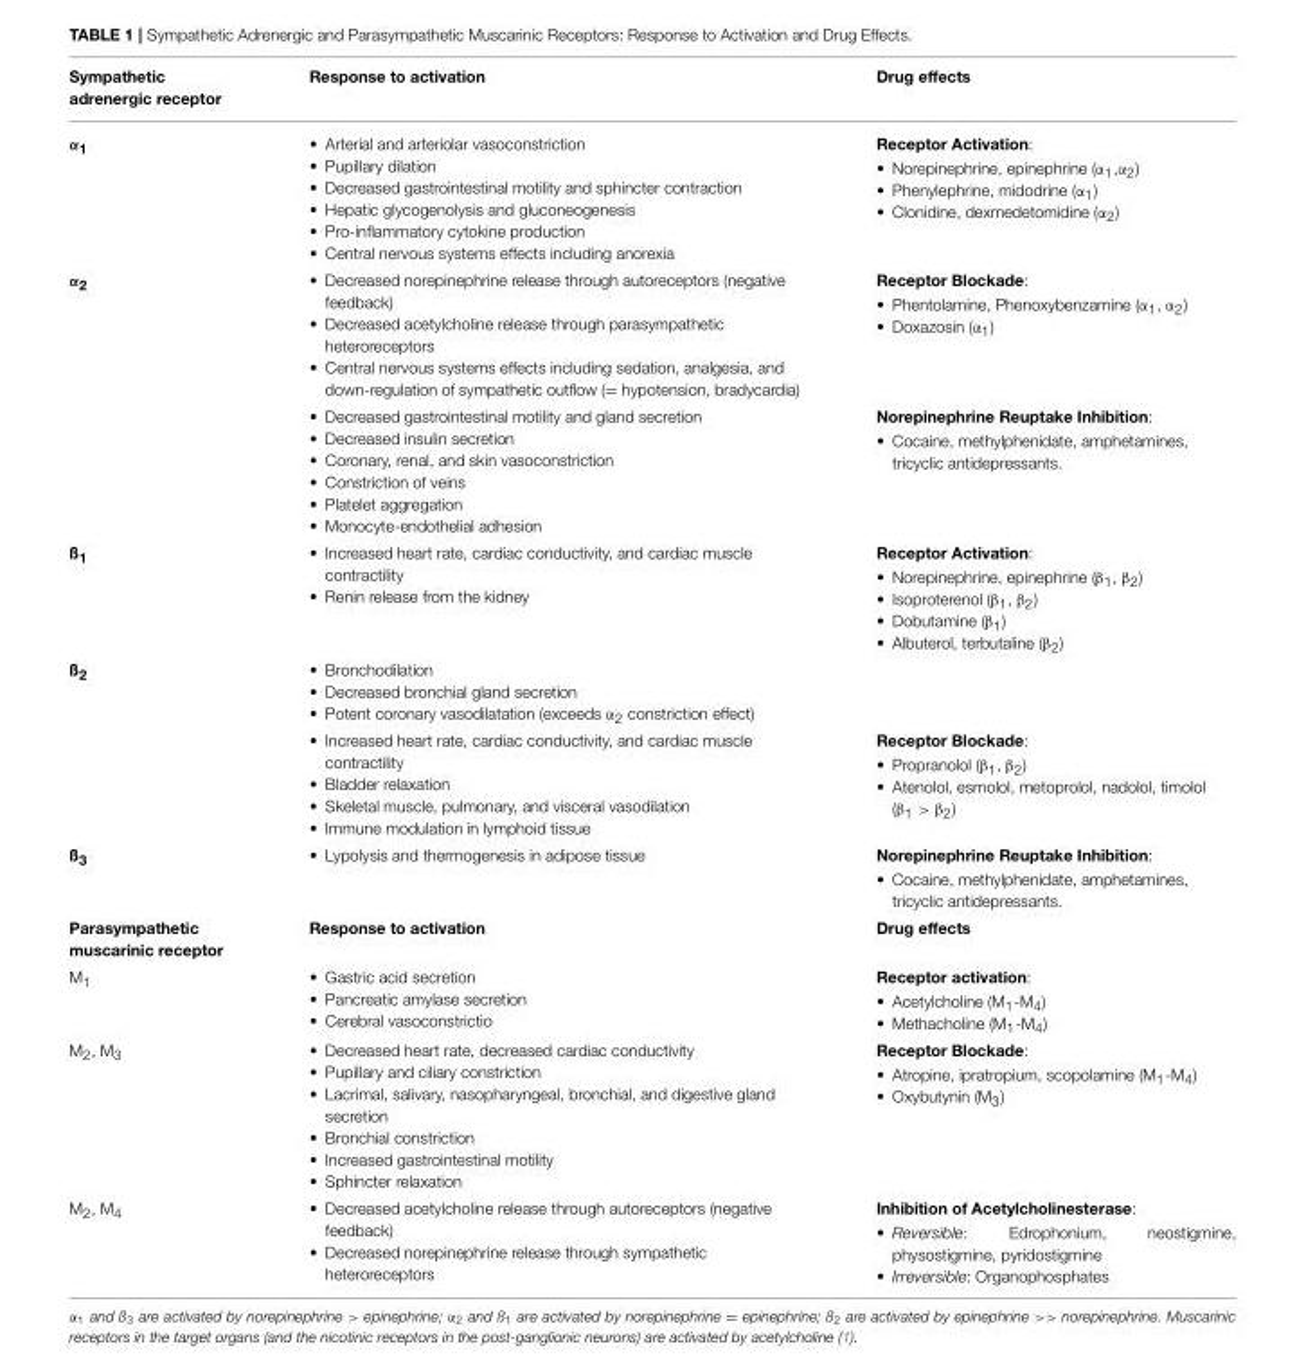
<table><thead><tr><td>Sympathetic adrenergic receptor</td><td>Response to activation</td><td>Drug effects</td></tr></thead><tbody><tr><td>α<sub>1</sub></td><td>• Arterial and arteriolar vasoconstriction • Pupillary dilation • Decreased gastrointestinal motility and sphincter contraction • Hepatic glycogenolysis and gluconeogenesis • Pro-inflammatory cytokine production • Central nervous systems effects including anorexia</td><td>Receptor Activation: • Norepinephrine, epinephrine (α<sub>1</sub>,α<sub>2</sub>) • Phenylephrine, midodrine (α<sub>1</sub>) • Clonidine, dexmedetomidine (α<sub>2</sub>)</td></tr><tr><td rowspan="2">α<sub>2</sub></td><td>• Decreased norepinephrine release through autoreceptors (negative feedback) • Decreased acetylcholine release through parasympathetic heteroreceptors • Central nervous systems effects including sedation, analgesia, and down-regulation of sympathetic outflow (= hypotension, bradycardia)</td><td>Receptor Blockade: • Phentolamine, Phenoxybenzamine (α<sub>1</sub>, α<sub>2</sub>) • Doxazosin (α<sub>1</sub>)</td></tr><tr><td>• Decreased gastrointestinal motility and gland secretion • Decreased insulin secretion • Coronary, renal, and skin vasoconstriction • Constriction of veins • Platelet aggregation • Monocyte-endothelial adhesion</td><td>Norepinephrine Reuptake Inhibition: • Cocaine, methylphenidate, amphetamines, tricyclic antidepressants.</td></tr><tr><td>ß<sub>1</sub></td><td>• Increased heart rate, cardiac conductivity, and cardiac muscle contractility • Renin release from the kidney</td><td>Receptor Activation: • Norepinephrine, epinephrine (β<sub>1</sub>, β<sub>2</sub>) • Isoproterenol (β<sub>1</sub>, β<sub>2</sub>) • Dobutamine (β<sub>1</sub>) • Albuterol, terbutaline (β<sub>2</sub>)</td></tr><tr><td rowspan="2">ß<sub>2</sub></td><td>• Bronchodilation • Decreased bronchial gland secretion • Potent coronary vasodilatation (exceeds α<sub>2</sub> constriction effect)</td><td></td></tr><tr><td>• Increased heart rate, cardiac conductivity, and cardiac muscle contractility • Bladder relaxation • Skeletal muscle, pulmonary, and visceral vasodilation • Immune modulation in lymphoid tissue</td><td>Receptor Blockade: • Propranolol (β<sub>1</sub>, β<sub>2</sub>) • Atenolol, esmolol, metoprolol, nadolol, timolol (β<sub>1</sub> &gt; β<sub>2</sub>)</td></tr><tr><td>ß<sub>3</sub></td><td>• Lypolysis and thermogenesis in adipose tissue</td><td>Norepinephrine Reuptake Inhibition: • Cocaine, methylphenidate, amphetamines, tricyclic antidepressants.</td></tr><tr><td>Parasympathetic muscarinic receptor</td><td>Response to activation</td><td>Drug effects</td></tr><tr><td>M<sub>1</sub></td><td>• Gastric acid secretion • Pancreatic amylase secretion • Cerebral vasoconstrictio</td><td>Receptor activation: • Acetylcholine (M<sub>1</sub>-M<sub>4</sub>) • Methacholine (M<sub>1</sub>-M<sub>4</sub>)</td></tr><tr><td>M<sub>2</sub>, M<sub>3</sub></td><td>• Decreased heart rate, decreased cardiac conductivity • Pupillary and ciliary constriction • Lacrimal, salivary, nasopharyngeal, bronchial, and digestive gland secretion • Bronchial constriction • Increased gastrointestinal motility • Sphincter relaxation</td><td>Receptor Blockade: • Atropine, ipratropium, scopolamine (M<sub>1</sub>-M<sub>4</sub>) • Oxybutynin (M<sub>3</sub>)</td></tr><tr><td>M<sub>2</sub>, M<sub>4</sub></td><td>• Decreased acetylcholine release through autoreceptors (negative feedback) • Decreased norepinephrine release through sympathetic heteroreceptors</td><td>Inhibition of Acetylcholinesterase: • Reversible: Edrophonium, neostigmine, physostigmine, pyridostigmine • Irreversible: Organophosphates</td></tr></tbody></table>